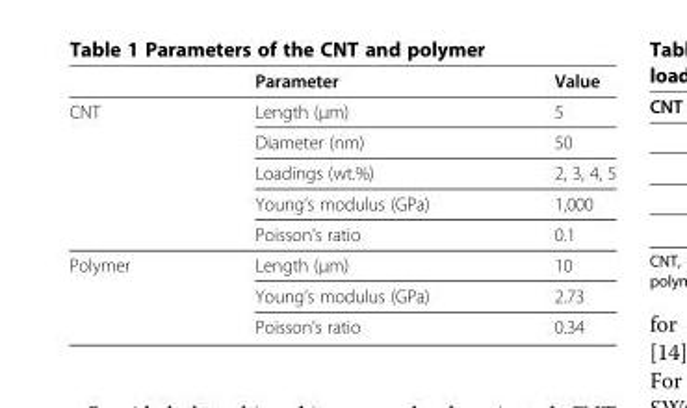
<table><thead><tr><td></td><td>Parameter</td><td>Value</td></tr></thead><tbody><tr><td rowspan="5">CNT</td><td>Length (μm)</td><td>5</td></tr><tr><td>Diameter (nm)</td><td>50</td></tr><tr><td>Loadings (wt.%)</td><td>2, 3, 4, 5</td></tr><tr><td>Young’s modulus (GPa)</td><td>1,000</td></tr><tr><td>Poisson’s ratio</td><td>0.1</td></tr><tr><td rowspan="3">Polymer</td><td>Length (μm)</td><td>10</td></tr><tr><td>Young’s modulus (GPa)</td><td>2.73</td></tr><tr><td>Poisson’s ratio</td><td>0.34</td></tr></tbody></table>